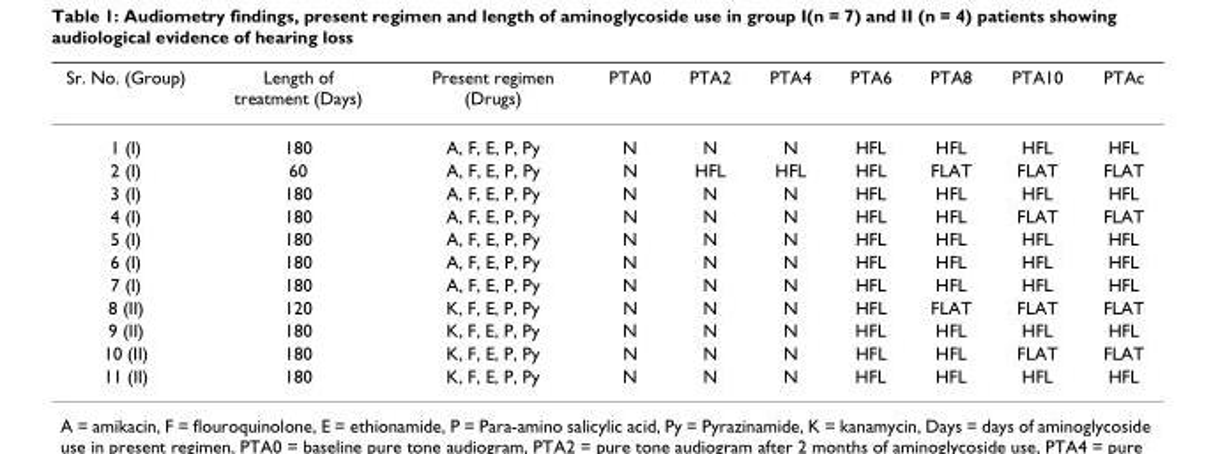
<table><thead><tr><td>Sr. No. (Group)</td><td>Length of treatment (Days)</td><td>Present regimen (Drugs)</td><td>PTA0</td><td>PTA2</td><td>PTA4</td><td>PTA6</td><td>PTA8</td><td>PTA10</td><td>PTAc</td></tr></thead><tbody><tr><td>1 (I)</td><td>180</td><td>A, F, E, P, Py</td><td>N</td><td>N</td><td>N</td><td>HFL</td><td>HFL</td><td>HFL</td><td>HFL</td></tr><tr><td>2 (I)</td><td>60</td><td>A, F, E, P, Py</td><td>N</td><td>HFL</td><td>HFL</td><td>HFL</td><td>FLAT</td><td>FLAT</td><td>FLAT</td></tr><tr><td>3 (I)</td><td>180</td><td>A, F, E, P, Py</td><td>N</td><td>N</td><td>N</td><td>HFL</td><td>HFL</td><td>HFL</td><td>HFL</td></tr><tr><td>4 (I)</td><td>180</td><td>A, F, E, P, Py</td><td>N</td><td>N</td><td>N</td><td>HFL</td><td>HFL</td><td>FLAT</td><td>FLAT</td></tr><tr><td>5 (I)</td><td>180</td><td>A, F, E, P, Py</td><td>N</td><td>N</td><td>N</td><td>HFL</td><td>HFL</td><td>HFL</td><td>HFL</td></tr><tr><td>6 (I)</td><td>180</td><td>A, F, E, P, Py</td><td>N</td><td>N</td><td>N</td><td>HFL</td><td>HFL</td><td>HFL</td><td>HFL</td></tr><tr><td>7 (I)</td><td>180</td><td>A, F, E, P, Py</td><td>N</td><td>N</td><td>N</td><td>HFL</td><td>HFL</td><td>HFL</td><td>HFL</td></tr><tr><td>8 (II)</td><td>120</td><td>K, F, E, P, Py</td><td>N</td><td>N</td><td>N</td><td>HFL</td><td>FLAT</td><td>FLAT</td><td>FLAT</td></tr><tr><td>9 (II)</td><td>180</td><td>K, F, E, P, Py</td><td>N</td><td>N</td><td>N</td><td>HFL</td><td>HFL</td><td>HFL</td><td>HFL</td></tr><tr><td>10 (II)</td><td>180</td><td>K, F, E, P, Py</td><td>N</td><td>N</td><td>N</td><td>HFL</td><td>HFL</td><td>FLAT</td><td>FLAT</td></tr><tr><td>11 (II)</td><td>180</td><td>K, F, E, P, Py</td><td>N</td><td>N</td><td>N</td><td>HFL</td><td>HFL</td><td>HFL</td><td>HFL</td></tr></tbody></table>